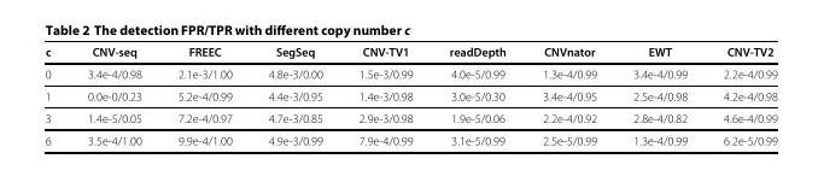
<table><thead><tr><td>c</td><td>CNV-seq</td><td>FREEC</td><td>SegSeq</td><td>CNV-TV1</td><td>readDepth</td><td>CNVnator</td><td>EWT</td><td>CNV-TV2</td></tr></thead><tbody><tr><td>0</td><td>3.4e-4/0.98</td><td>2.1e-3/1.00</td><td>4.8e-3/0.00</td><td>1.5e-3/0.99</td><td>4.0e-5/0.99</td><td>1.3e-4/0.99</td><td>3.4e-4/0.99</td><td>2.2e-4/0.99</td></tr><tr><td>1</td><td>0.0e-0/0.23</td><td>5.2e-4/0.99</td><td>4.4e-3/0.95</td><td>1.4e-3/0.98</td><td>3.0e-5/0.30</td><td>3.4e-4/0.95</td><td>2.5e-4/0.98</td><td>4.2e-4/0.98</td></tr><tr><td>3</td><td>1.4e-5/0.05</td><td>7.2e-4/0.97</td><td>4.7e-3/0.85</td><td>2.9e-3/0.98</td><td>1.9e-5/0.06</td><td>2.2e-4/0.92</td><td>2.8e-4/0.82</td><td>4.6e-4/0.99</td></tr><tr><td>6</td><td>3.5e-4/1.00</td><td>9.9e-4/1.00</td><td>4.9e-3/0.99</td><td>7.9e-4/0.99</td><td>3.1e-5/0.99</td><td>2.5e-5/0.99</td><td>1.3e-4/0.99</td><td>6.2e-5/0.99</td></tr></tbody></table>